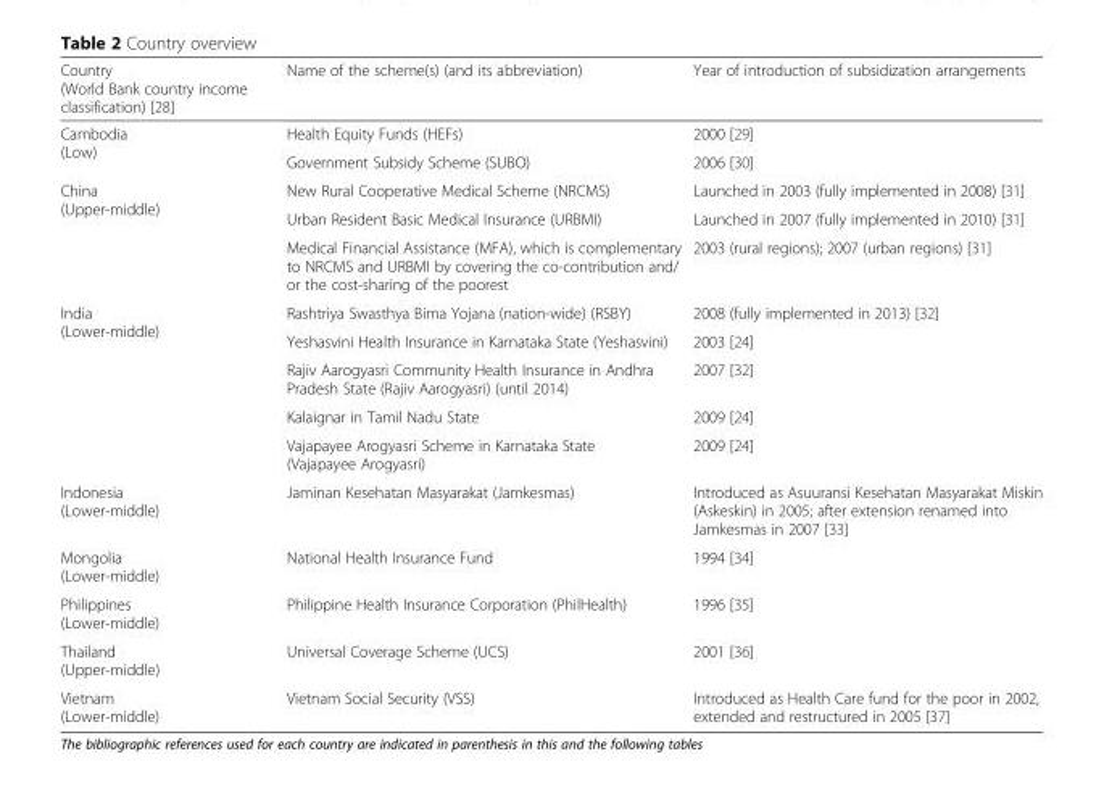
<table><thead><tr><td>Country (World Bank country income classification) [28]</td><td>Name of the scheme(s) (and its abbreviation)</td><td>Year of introduction of subsidization arrangements</td></tr></thead><tbody><tr><td rowspan="2">Cambodia (Low)</td><td>Health Equity Funds (HEFs)</td><td>2000 [29]</td></tr><tr><td>Government Subsidy Scheme (SUBO)</td><td>2006 [30]</td></tr><tr><td rowspan="3">China (Upper-middle)</td><td>New Rural Cooperative Medical Scheme (NRCMS)</td><td>Launched in 2003 (fully implemented in 2008) [31]</td></tr><tr><td>Urban Resident Basic Medical Insurance (URBMI)</td><td>Launched in 2007 (fully implemented in 2010) [31]</td></tr><tr><td>Medical Financial Assistance (MFA), which is complementary to NRCMS and URBMI by covering the co-contribution and/ or the cost-sharing of the poorest</td><td>2003 (rural regions); 2007 (urban regions) [31]</td></tr><tr><td rowspan="5">India (Lower-middle)</td><td>Rashtriya Swasthya Bima Yojana (nation-wide) (RSBY)</td><td>2008 (fully implemented in 2013) [32]</td></tr><tr><td>Yeshasvini Health Insurance in Karnataka State (Yeshasvini)</td><td>2003 [24]</td></tr><tr><td>Rajiv Aarogyasri Community Health Insurance in Andhra Pradesh State (Rajiv Aarogyasri) (until 2014)</td><td>2007 [32]</td></tr><tr><td>Kalaignar in Tamil Nadu State</td><td>2009 [24]</td></tr><tr><td>Vajapayee Arogyasri Scheme in Karnataka State (Vajapayee Arogyasri)</td><td>2009 [24]</td></tr><tr><td>Indonesia (Lower-middle)</td><td>Jaminan Kesehatan Masyarakat (Jamkesmas)</td><td>Introduced as Asuuransi Kesehatan Masyarakat Miskin (Askeskin) in 2005; after extension renamed into Jamkesmas in 2007 [33]</td></tr><tr><td>Mongolia (Lower-middle)</td><td>National Health Insurance Fund</td><td>1994 [34]</td></tr><tr><td>Philippines (Lower-middle)</td><td>Philippine Health Insurance Corporation (PhilHealth)</td><td>1996 [35]</td></tr><tr><td>Thailand (Upper-middle)</td><td>Universal Coverage Scheme (UCS)</td><td>2001 [36]</td></tr><tr><td>Vietnam (Lower-middle)</td><td>Vietnam Social Security (VSS)</td><td>Introduced as Health Care fund for the poor in 2002, extended and restructured in 2005 [37]</td></tr></tbody></table>